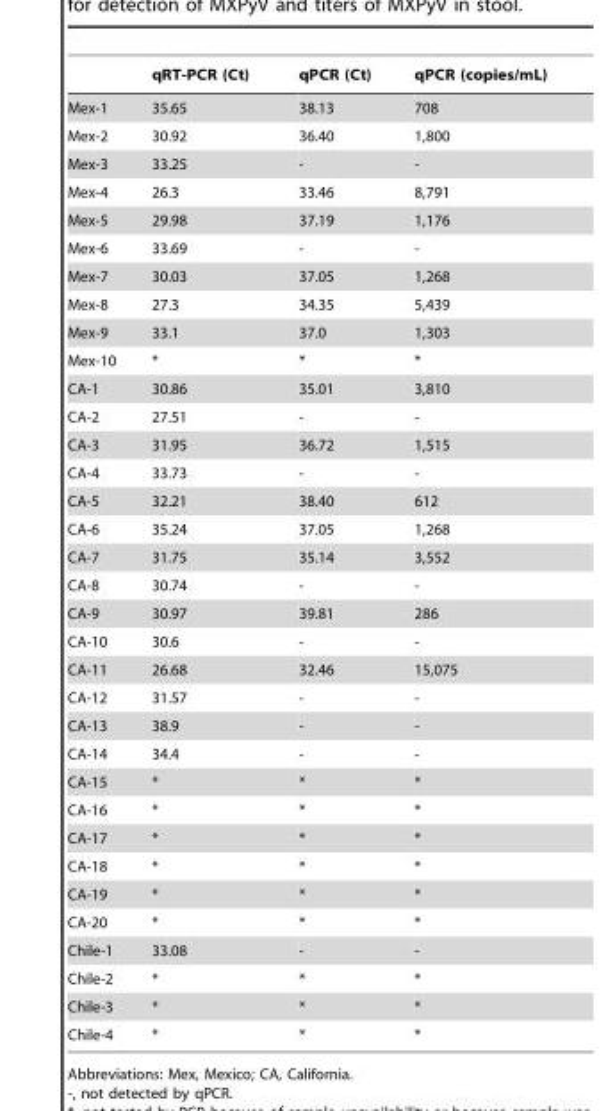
<table><thead><tr><td></td><td>qRT-PCR (Ct)</td><td>qPCR (Ct)</td><td>qPCR (copies/mL)</td></tr></thead><tbody><tr><td>Mex-1</td><td>35.65</td><td>38.13</td><td>708</td></tr><tr><td>Mex-2</td><td>30.92</td><td>36.40</td><td>1,800</td></tr><tr><td>Mex-3</td><td>33.25</td><td>-</td><td>-</td></tr><tr><td>Mex-4</td><td>26.3</td><td>33.46</td><td>8,791</td></tr><tr><td>Mex-5</td><td>29.98</td><td>37.19</td><td>1,176</td></tr><tr><td>Mex-6</td><td>33.69</td><td>-</td><td>-</td></tr><tr><td>Mex-7</td><td>30.03</td><td>37.05</td><td>1,268</td></tr><tr><td>Mex-8</td><td>27.3</td><td>34.35</td><td>5,439</td></tr><tr><td>Mex-9</td><td>33.1</td><td>37.0</td><td>1,303</td></tr><tr><td>Mex-10</td><td>*</td><td>*</td><td>*</td></tr><tr><td>CA-1</td><td>30.86</td><td>35.01</td><td>3,810</td></tr><tr><td>CA-2</td><td>27.51</td><td>-</td><td>-</td></tr><tr><td>CA-3</td><td>31.95</td><td>36.72</td><td>1,515</td></tr><tr><td>CA-4</td><td>33.73</td><td>-</td><td>-</td></tr><tr><td>CA-5</td><td>32.21</td><td>38.40</td><td>612</td></tr><tr><td>CA-6</td><td>35.24</td><td>37.05</td><td>1,268</td></tr><tr><td>CA-7</td><td>31.75</td><td>35.14</td><td>3,552</td></tr><tr><td>CA-8</td><td>30.74</td><td>-</td><td>-</td></tr><tr><td>CA-9</td><td>30.97</td><td>39.81</td><td>286</td></tr><tr><td>CA-10</td><td>30.6</td><td>-</td><td>-</td></tr><tr><td>CA-11</td><td>26.68</td><td>32.46</td><td>15,075</td></tr><tr><td>CA-12</td><td>31.57</td><td>-</td><td>-</td></tr><tr><td>CA-13</td><td>38.9</td><td>-</td><td>-</td></tr><tr><td>CA-14</td><td>34.4</td><td>-</td><td>-</td></tr><tr><td>CA-15</td><td>*</td><td>*</td><td>*</td></tr><tr><td>CA-16</td><td>*</td><td>*</td><td>*</td></tr><tr><td>CA-17</td><td>*</td><td>*</td><td>*</td></tr><tr><td>CA-18</td><td>*</td><td>*</td><td>*</td></tr><tr><td>CA-19</td><td>*</td><td>*</td><td>*</td></tr><tr><td>CA-20</td><td>*</td><td>*</td><td>*</td></tr><tr><td>Chile-1</td><td>33.08</td><td>-</td><td>-</td></tr><tr><td>Chile-2</td><td>*</td><td>*</td><td>*</td></tr><tr><td>Chile-3</td><td>*</td><td>*</td><td>*</td></tr><tr><td>Chile-4</td><td>*</td><td>*</td><td>*</td></tr></tbody></table>